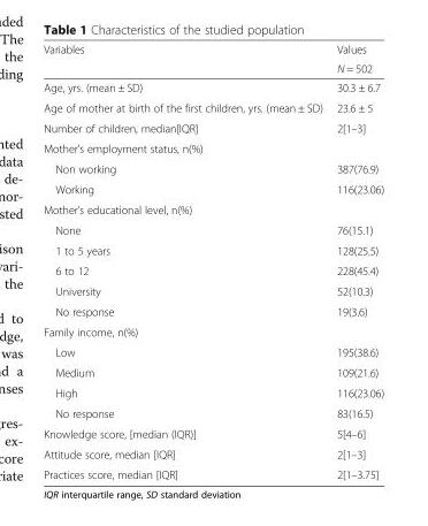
<table><thead><tr><td rowspan="2">Variables</td><td rowspan="2">Values N = 502</td></tr><tr></tr></thead><tbody><tr><td>Age, yrs. (mean ± SD)</td><td>30.3 ± 6.7</td></tr><tr><td>Age of mother at birth of the first children, yrs. (mean ± SD)</td><td>23.6 ± 5</td></tr><tr><td>Number of children, median[IQR]</td><td>2[1–3]</td></tr><tr><td colspan="2">Mother’s employment status, n(%)</td></tr><tr><td>Non working</td><td>387(76.9)</td></tr><tr><td>Working</td><td>116(23.06)</td></tr><tr><td colspan="2">Mother’s educational level, n(%)</td></tr><tr><td>None</td><td>76(15.1)</td></tr><tr><td>1 to 5 years</td><td>128(25.5)</td></tr><tr><td>6 to 12</td><td>228(45.4)</td></tr><tr><td>University</td><td>52(10.3)</td></tr><tr><td>No response</td><td>19(3.6)</td></tr><tr><td colspan="2">Family income, n(%)</td></tr><tr><td>Low</td><td>195(38.6)</td></tr><tr><td>Medium</td><td>109(21.6)</td></tr><tr><td>High</td><td>116(23.06)</td></tr><tr><td>No response</td><td>83(16.5)</td></tr><tr><td>Knowledge score, [median (IQR)]</td><td>5[4–6]</td></tr><tr><td>Attitude score, median [IQR]</td><td>2[1–3]</td></tr><tr><td>Practices score, median [IQR]</td><td>2[1–3.75]</td></tr></tbody></table>